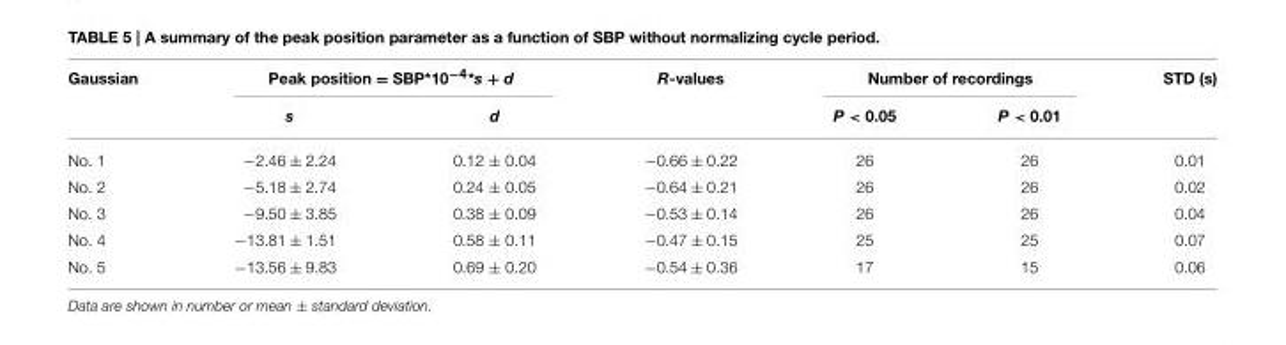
<table><thead><tr><td rowspan="2">Gaussian</td><td colspan="2">Peak position = SBP*10<sup>−4*</sup>s + d</td><td rowspan="2">R-values</td><td colspan="2">Number of recordings</td><td rowspan="2">STD (s)</td></tr><tr><td>s</td><td>d</td><td>P &lt; 0.05</td><td>P &lt; 0.01</td></tr></thead><tbody><tr><td>No. 1</td><td>−2.46 ± 2.24</td><td>0.12 ± 0.04</td><td>−0.66 ± 0.22</td><td>26</td><td>26</td><td>0.01</td></tr><tr><td>No. 2</td><td>−5.18 ± 2.74</td><td>0.24 ± 0.05</td><td>−0.64 ± 0.21</td><td>26</td><td>26</td><td>0.02</td></tr><tr><td>No. 3</td><td>−9.50 ± 3.85</td><td>0.38 ± 0.09</td><td>−0.53 ± 0.14</td><td>26</td><td>26</td><td>0.04</td></tr><tr><td>No. 4</td><td>−13.81 ± 1.51</td><td>0.58 ± 0.11</td><td>−0.47 ± 0.15</td><td>25</td><td>25</td><td>0.07</td></tr><tr><td>No. 5</td><td>−13.56 ± 9.83</td><td>0.69 ± 0.20</td><td>−0.54 ± 0.36</td><td>17</td><td>15</td><td>0.06</td></tr></tbody></table>